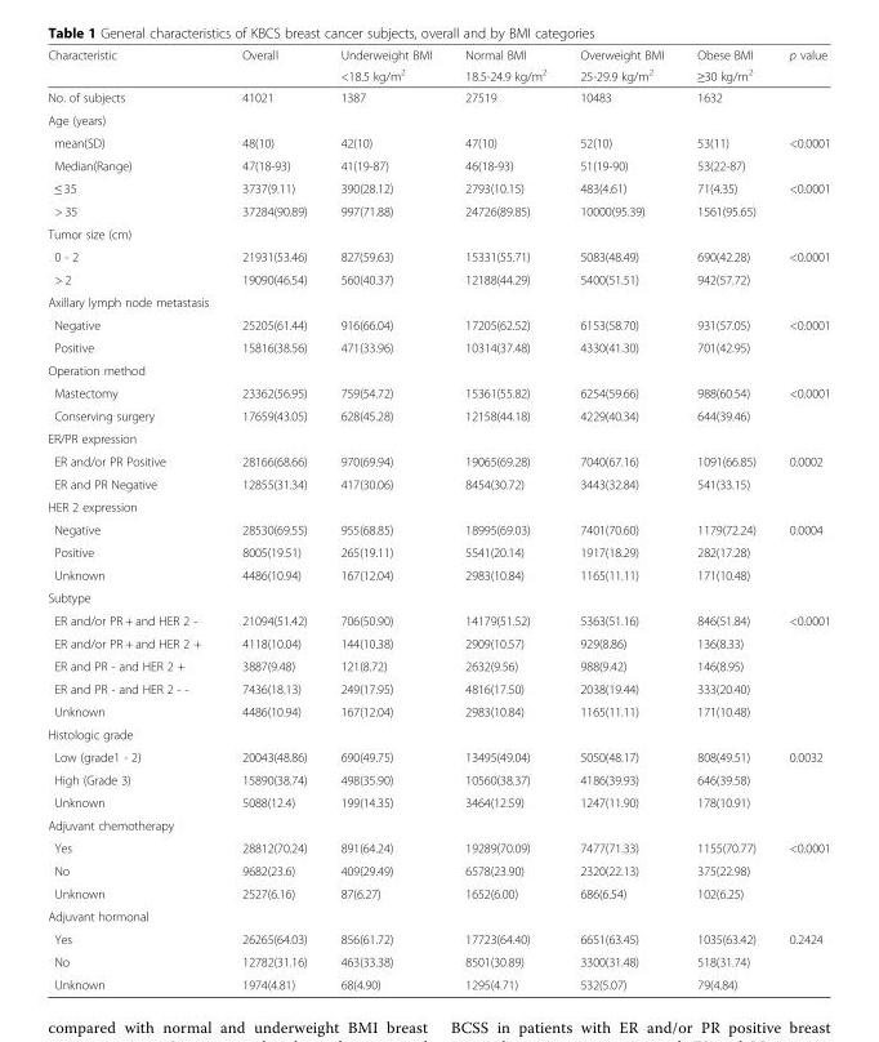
<table><thead><tr><td rowspan="2">Characteristic</td><td rowspan="2">Overall</td><td rowspan="2">Underweight BMI &lt;18.5 kg/m<sup>2</sup></td><td rowspan="2">Normal BMI 18.5-24.9 kg/m<sup>2</sup></td><td rowspan="2">Overweight BMI 25-29.9 kg/m<sup>2</sup></td><td rowspan="2">Obese BMI ≥30 kg/m<sup>2</sup></td><td rowspan="2">p value</td></tr><tr></tr></thead><tbody><tr><td>No. of subjects</td><td>41021</td><td>1387</td><td>27519</td><td>10483</td><td>1632</td><td></td></tr><tr><td colspan="7">Age (years)</td></tr><tr><td>mean(SD)</td><td>48(10)</td><td>42(10)</td><td>47(10)</td><td>52(10)</td><td>53(11)</td><td>&lt;0.0001</td></tr><tr><td>Median(Range)</td><td>47(18-93)</td><td>41(19-87)</td><td>46(18-93)</td><td>51(19-90)</td><td>53(22-87)</td><td></td></tr><tr><td>≤ 35</td><td>3737(9.11)</td><td>390(28.12)</td><td>2793(10.15)</td><td>483(4.61)</td><td>71(4.35)</td><td>&lt;0.0001</td></tr><tr><td>&gt; 35</td><td>37284(90.89)</td><td>997(71.88)</td><td>24726(89.85)</td><td>10000(95.39)</td><td>1561(95.65)</td><td></td></tr><tr><td colspan="7">Tumor size (cm)</td></tr><tr><td>0 - 2</td><td>21931(53.46)</td><td>827(59.63)</td><td>15331(55.71)</td><td>5083(48.49)</td><td>690(42.28)</td><td>&lt;0.0001</td></tr><tr><td>&gt; 2</td><td>19090(46.54)</td><td>560(40.37)</td><td>12188(44.29)</td><td>5400(51.51)</td><td>942(57.72)</td><td></td></tr><tr><td colspan="7">Axillary lymph node metastasis</td></tr><tr><td>Negative</td><td>25205(61.44)</td><td>916(66.04)</td><td>17205(62.52)</td><td>6153(58.70)</td><td>931(57.05)</td><td>&lt;0.0001</td></tr><tr><td>Positive</td><td>15816(38.56)</td><td>471(33.96)</td><td>10314(37.48)</td><td>4330(41.30)</td><td>701(42.95)</td><td></td></tr><tr><td colspan="7">Operation method</td></tr><tr><td>Mastectomy</td><td>23362(56.95)</td><td>759(54.72)</td><td>15361(55.82)</td><td>6254(59.66)</td><td>988(60.54)</td><td>&lt;0.0001</td></tr><tr><td>Conserving surgery</td><td>17659(43.05)</td><td>628(45.28)</td><td>12158(44.18)</td><td>4229(40.34)</td><td>644(39.46)</td><td></td></tr><tr><td colspan="7">ER/PR expression</td></tr><tr><td>ER and/or PR Positive</td><td>28166(68.66)</td><td>970(69.94)</td><td>19065(69.28)</td><td>7040(67.16)</td><td>1091(66.85)</td><td>0.0002</td></tr><tr><td>ER and PR Negative</td><td>12855(31.34)</td><td>417(30.06)</td><td>8454(30.72)</td><td>3443(32.84)</td><td>541(33.15)</td><td></td></tr><tr><td colspan="7">HER 2 expression</td></tr><tr><td>Negative</td><td>28530(69.55)</td><td>955(68.85)</td><td>18995(69.03)</td><td>7401(70.60)</td><td>1179(72.24)</td><td>0.0004</td></tr><tr><td>Positive</td><td>8005(19.51)</td><td>265(19.11)</td><td>5541(20.14)</td><td>1917(18.29)</td><td>282(17.28)</td><td></td></tr><tr><td>Unknown</td><td>4486(10.94)</td><td>167(12.04)</td><td>2983(10.84)</td><td>1165(11.11)</td><td>171(10.48)</td><td></td></tr><tr><td colspan="7">Subtype</td></tr><tr><td>ER and/or PR + and HER 2 -</td><td>21094(51.42)</td><td>706(50.90)</td><td>14179(51.52)</td><td>5363(51.16)</td><td>846(51.84)</td><td>&lt;0.0001</td></tr><tr><td>ER and/or PR + and HER 2 +</td><td>4118(10.04)</td><td>144(10.38)</td><td>2909(10.57)</td><td>929(8.86)</td><td>136(8.33)</td><td></td></tr><tr><td>ER and PR - and HER 2 +</td><td>3887(9.48)</td><td>121(8.72)</td><td>2632(9.56)</td><td>988(9.42)</td><td>146(8.95)</td><td></td></tr><tr><td>ER and PR - and HER 2 - -</td><td>7436(18.13)</td><td>249(17.95)</td><td>4816(17.50)</td><td>2038(19.44)</td><td>333(20.40)</td><td></td></tr><tr><td>Unknown</td><td>4486(10.94)</td><td>167(12.04)</td><td>2983(10.84)</td><td>1165(11.11)</td><td>171(10.48)</td><td></td></tr><tr><td colspan="7">Histologic grade</td></tr><tr><td>Low (grade1 - 2)</td><td>20043(48.86)</td><td>690(49.75)</td><td>13495(49.04)</td><td>5050(48.17)</td><td>808(49.51)</td><td>0.0032</td></tr><tr><td>High (Grade 3)</td><td>15890(38.74)</td><td>498(35.90)</td><td>10560(38.37)</td><td>4186(39.93)</td><td>646(39.58)</td><td></td></tr><tr><td>Unknown</td><td>5088(12.4)</td><td>199(14.35)</td><td>3464(12.59)</td><td>1247(11.90)</td><td>178(10.91)</td><td></td></tr><tr><td colspan="7">Adjuvant chemotherapy</td></tr><tr><td>Yes</td><td>28812(70.24)</td><td>891(64.24)</td><td>19289(70.09)</td><td>7477(71.33)</td><td>1155(70.77)</td><td>&lt;0.0001</td></tr><tr><td>No</td><td>9682(23.6)</td><td>409(29.49)</td><td>6578(23.90)</td><td>2320(22.13)</td><td>375(22.98)</td><td></td></tr><tr><td>Unknown</td><td>2527(6.16)</td><td>87(6.27)</td><td>1652(6.00)</td><td>686(6.54)</td><td>102(6.25)</td><td></td></tr><tr><td colspan="7">Adjuvant hormonal</td></tr><tr><td>Yes</td><td>26265(64.03)</td><td>856(61.72)</td><td>17723(64.40)</td><td>6651(63.45)</td><td>1035(63.42)</td><td>0.2424</td></tr><tr><td>No</td><td>12782(31.16)</td><td>463(33.38)</td><td>8501(30.89)</td><td>3300(31.48)</td><td>518(31.74)</td><td></td></tr><tr><td>Unknown</td><td>1974(4.81)</td><td>68(4.90)</td><td>1295(4.71)</td><td>532(5.07)</td><td>79(4.84)</td><td></td></tr></tbody></table>